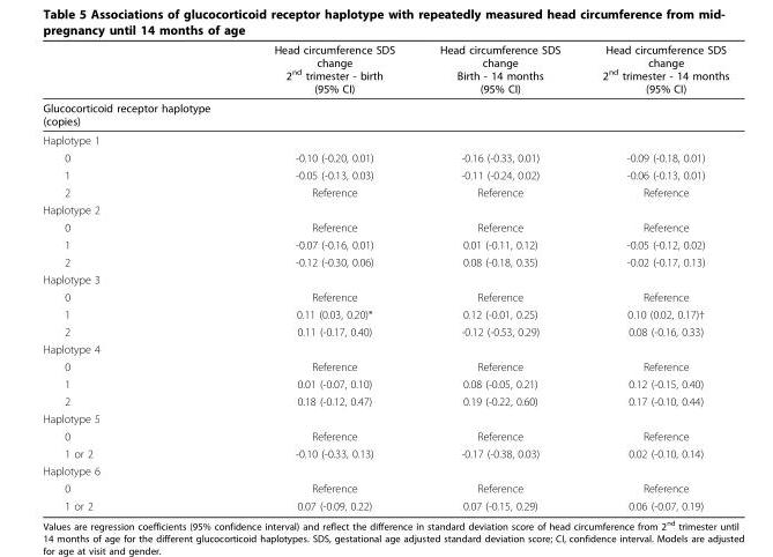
<table><thead><tr><td></td><td>Head circumference SDS change 2<sup>nd</sup> trimester - birth (95% CI)</td><td>Head circumference SDS change Birth - 14 months (95% CI)</td><td>Head circumference SDS change 2<sup>nd</sup> trimester - 14 months (95% CI)</td></tr></thead><tbody><tr><td colspan="4">Glucocorticoid receptor haplotype (copies)</td></tr><tr><td colspan="4">Haplotype 1</td></tr><tr><td>0</td><td>-0.10 (-0.20, 0.01)</td><td>-0.16 (-0.33, 0.01)</td><td>-0.09 (-0.18, 0.01)</td></tr><tr><td>1</td><td>-0.05 (-0.13, 0.03)</td><td>-0.11 (-0.24, 0.02)</td><td>-0.06 (-0.13, 0.01)</td></tr><tr><td>2</td><td>Reference</td><td>Reference</td><td>Reference</td></tr><tr><td colspan="4">Haplotype 2</td></tr><tr><td>0</td><td>Reference</td><td>Reference</td><td>Reference</td></tr><tr><td>1</td><td>-0.07 (-0.16, 0.01)</td><td>0.01 (-0.11, 0.12)</td><td>-0.05 (-0.12, 0.02)</td></tr><tr><td>2</td><td>-0.12 (-0.30, 0.06)</td><td>0.08 (-0.18, 0.35)</td><td>-0.02 (-0.17, 0.13)</td></tr><tr><td colspan="4">Haplotype 3</td></tr><tr><td>0</td><td>Reference</td><td>Reference</td><td>Reference</td></tr><tr><td>1</td><td>0.11 (0.03, 0.20)*</td><td>0.12 (-0.01, 0.25)</td><td>0.10 (0.02, 0.17)†</td></tr><tr><td>2</td><td>0.11 (-0.17, 0.40)</td><td>-0.12 (-0.53, 0.29)</td><td>0.08 (-0.16, 0.33)</td></tr><tr><td colspan="4">Haplotype 4</td></tr><tr><td>0</td><td>Reference</td><td>Reference</td><td>Reference</td></tr><tr><td>1</td><td>0.01 (-0.07, 0.10)</td><td>0.08 (-0.05, 0.21)</td><td>0.12 (-0.15, 0.40)</td></tr><tr><td>2</td><td>0.18 (-0.12, 0.47)</td><td>0.19 (-0.22, 0.60)</td><td>0.17 (-0.10, 0.44)</td></tr><tr><td colspan="4">Haplotype 5</td></tr><tr><td>0</td><td>Reference</td><td>Reference</td><td>Reference</td></tr><tr><td>1 or 2</td><td>-0.10 (-0.33, 0.13)</td><td>-0.17 (-0.38, 0.03)</td><td>0.02 (-0.10, 0.14)</td></tr><tr><td colspan="4">Haplotype 6</td></tr><tr><td>0</td><td>Reference</td><td>Reference</td><td>Reference</td></tr><tr><td>1 or 2</td><td>0.07 (-0.09, 0.22)</td><td>0.07 (-0.15, 0.29)</td><td>0.06 (-0.07, 0.19)</td></tr></tbody></table>